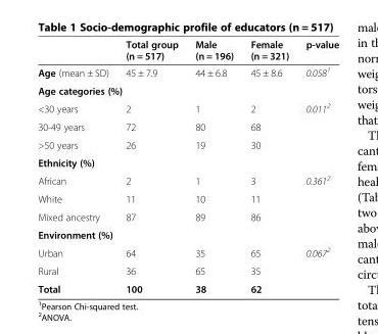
<table><thead><tr><td></td><td>Total group (n = 517)</td><td>Male (n = 196)</td><td>Female (n = 321)</td><td>p-value</td></tr></thead><tbody><tr><td>Age (mean ± SD)</td><td>45 ± 7.9</td><td>44 ± 6.8</td><td>45 ± 8.6</td><td>0.058<sup>1</sup></td></tr><tr><td colspan="5">Age categories (%)</td></tr><tr><td>&lt;30 years</td><td>2</td><td>1</td><td>2</td><td>0.011<sup>2</sup></td></tr><tr><td>30-49 years</td><td>72</td><td>80</td><td>68</td><td></td></tr><tr><td>&gt;50 years</td><td>26</td><td>19</td><td>30</td><td></td></tr><tr><td colspan="5">Ethnicity (%)</td></tr><tr><td>African</td><td>2</td><td>1</td><td>3</td><td rowspan="3">0.361<sup>2</sup></td></tr><tr><td>White</td><td>11</td><td>10</td><td>11</td></tr><tr><td>Mixed ancestry</td><td>87</td><td>89</td><td>86</td></tr><tr><td colspan="5">Environment (%)</td></tr><tr><td>Urban</td><td>64</td><td>35</td><td>65</td><td rowspan="2">0.067<sup>2</sup></td></tr><tr><td>Rural</td><td>36</td><td>65</td><td>35</td></tr><tr><td>Total</td><td>100</td><td>38</td><td>62</td><td></td></tr></tbody></table>